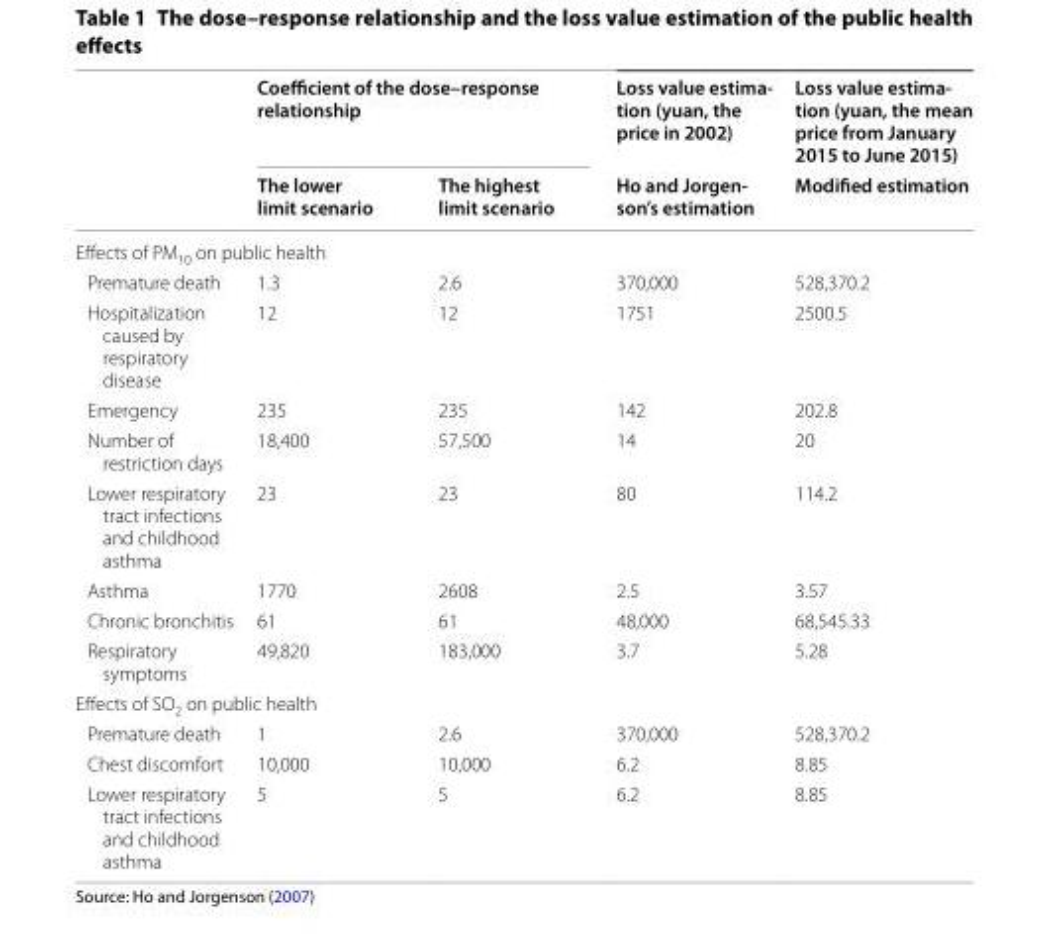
<table><thead><tr><td rowspan="2"></td><td colspan="2">Coefficient of the dose–response relationship</td><td rowspan="2">Loss value estima- tion (yuan, the price in 2002) Ho and Jorgen- son’s estimation</td><td rowspan="2">Loss value estima- tion (yuan, the mean price from January 2015 to June 2015) Modified estimation</td></tr><tr><td>The lower limit scenario</td><td>The highest limit scenario</td></tr></thead><tbody><tr><td colspan="5">Effects of PM<sub>10</sub> on public health</td></tr><tr><td>Premature death</td><td>1.3</td><td>2.6</td><td>370,000</td><td>528,370.2</td></tr><tr><td>Hospitalization caused by respiratory disease</td><td>12</td><td>12</td><td>1751</td><td>2500.5</td></tr><tr><td>Emergency</td><td>235</td><td>235</td><td>142</td><td>202.8</td></tr><tr><td>Number of restriction days</td><td>18,400</td><td>57,500</td><td>14</td><td>20</td></tr><tr><td>Lower respiratory tract infections and childhood asthma</td><td>23</td><td>23</td><td>80</td><td>114.2</td></tr><tr><td>Asthma</td><td>1770</td><td>2608</td><td>2.5</td><td>3.57</td></tr><tr><td>Chronic bronchitis</td><td>61</td><td>61</td><td>48,000</td><td>68,545.33</td></tr><tr><td>Respiratory symptoms</td><td>49,820</td><td>183,000</td><td>3.7</td><td>5.28</td></tr><tr><td colspan="5">Effects of SO<sub>2</sub> on public health</td></tr><tr><td>Premature death</td><td>1</td><td>2.6</td><td>370,000</td><td>528,370.2</td></tr><tr><td>Chest discomfort</td><td>10,000</td><td>10,000</td><td>6.2</td><td>8.85</td></tr><tr><td>Lower respiratory tract infections and childhood asthma</td><td>5</td><td>5</td><td>6.2</td><td>8.85</td></tr></tbody></table>